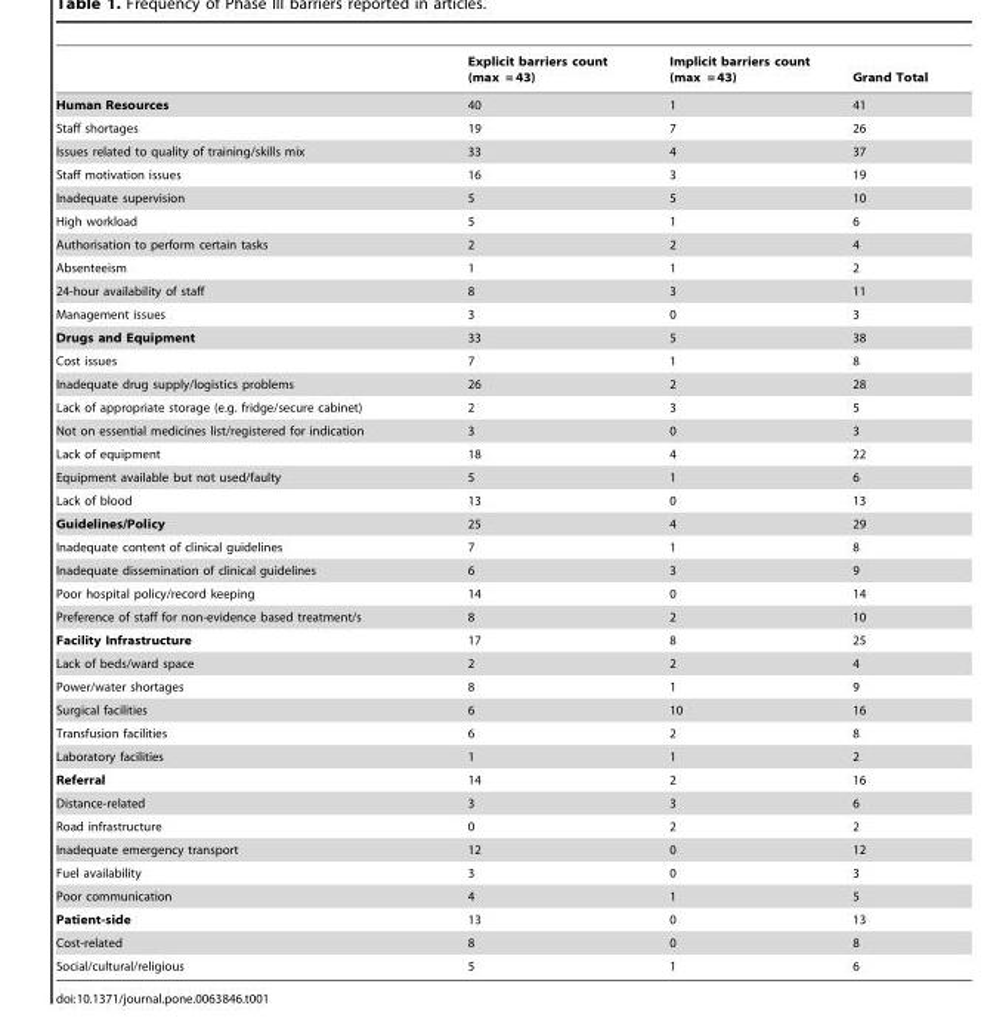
<table><thead><tr><td></td><td>Explicit barriers count (max = 43)</td><td>Implicit barriers count (max = 43)</td><td>Grand Total</td></tr></thead><tbody><tr><td>Human Resources</td><td>40</td><td>1</td><td>41</td></tr><tr><td>Staff shortages</td><td>19</td><td>7</td><td>26</td></tr><tr><td>Issues related to quality of training/skills mix</td><td>33</td><td>4</td><td>37</td></tr><tr><td>Staff motivation issues</td><td>16</td><td>3</td><td>19</td></tr><tr><td>Inadequate supervision</td><td>5</td><td>5</td><td>10</td></tr><tr><td>High workload</td><td>5</td><td>1</td><td>6</td></tr><tr><td>Authorisation to perform certain tasks</td><td>2</td><td>2</td><td>4</td></tr><tr><td>Absenteeism</td><td>1</td><td>1</td><td>2</td></tr><tr><td>24-hour availability of staff</td><td>8</td><td>3</td><td>11</td></tr><tr><td>Management issues</td><td>3</td><td>0</td><td>3</td></tr><tr><td>Drugs and Equipment</td><td>33</td><td>5</td><td>38</td></tr><tr><td>Cost issues</td><td>7</td><td>1</td><td>8</td></tr><tr><td>Inadequate drug supply/logistics problems</td><td>26</td><td>2</td><td>28</td></tr><tr><td>Lack of appropriate storage (e.g. fridge/secure cabinet)</td><td>2</td><td>3</td><td>5</td></tr><tr><td>Not on essential medicines list/registered for indication</td><td>3</td><td>0</td><td>3</td></tr><tr><td>Lack of equipment</td><td>18</td><td>4</td><td>22</td></tr><tr><td>Equipment available but not used/faulty</td><td>5</td><td>1</td><td>6</td></tr><tr><td>Lack of blood</td><td>13</td><td>0</td><td>13</td></tr><tr><td>Guidelines/Policy</td><td>25</td><td>4</td><td>29</td></tr><tr><td>Inadequate content of clinical guidelines</td><td>7</td><td>1</td><td>8</td></tr><tr><td>Inadequate dissemination of clinical guidelines</td><td>6</td><td>3</td><td>9</td></tr><tr><td>Poor hospital policy/record keeping</td><td>14</td><td>0</td><td>14</td></tr><tr><td>Preference of staff for non-evidence based treatment/s</td><td>8</td><td>2</td><td>10</td></tr><tr><td>Facility Infrastructure</td><td>17</td><td>8</td><td>25</td></tr><tr><td>Lack of beds/ward space</td><td>2</td><td>2</td><td>4</td></tr><tr><td>Power/water shortages</td><td>8</td><td>1</td><td>9</td></tr><tr><td>Surgical facilities</td><td>6</td><td>10</td><td>16</td></tr><tr><td>Transfusion facilities</td><td>6</td><td>2</td><td>8</td></tr><tr><td>Laboratory facilities</td><td>1</td><td>1</td><td>2</td></tr><tr><td>Referral</td><td>14</td><td>2</td><td>16</td></tr><tr><td>Distance-related</td><td>3</td><td>3</td><td>6</td></tr><tr><td>Road infrastructure</td><td>0</td><td>2</td><td>2</td></tr><tr><td>Inadequate emergency transport</td><td>12</td><td>0</td><td>12</td></tr><tr><td>Fuel availability</td><td>3</td><td>0</td><td>3</td></tr><tr><td>Poor communication</td><td>4</td><td>1</td><td>5</td></tr><tr><td>Patient-side</td><td>13</td><td>0</td><td>13</td></tr><tr><td>Cost-related</td><td>8</td><td>0</td><td>8</td></tr><tr><td>Social/cultural/religious</td><td>5</td><td>1</td><td>6</td></tr></tbody></table>